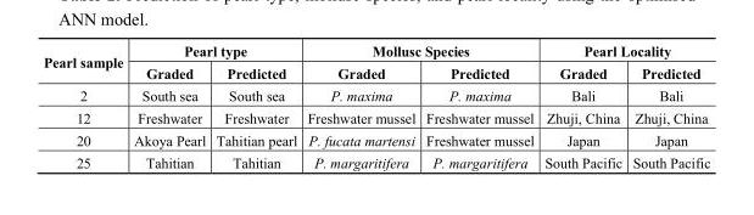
<table><thead><tr><td rowspan="2">Pearl sample</td><td colspan="2">Pearl type</td><td colspan="2">Mollusc Species</td><td colspan="2">Pearl Locality</td></tr><tr><td>Graded</td><td>Predicted</td><td>Graded</td><td>Predicted</td><td>Graded</td><td>Predicted</td></tr></thead><tbody><tr><td>2</td><td>South sea</td><td>South sea</td><td>P. maxima</td><td>P. maxima</td><td>Bali</td><td>Bali</td></tr><tr><td>12</td><td>Freshwater</td><td>Freshwater</td><td>Freshwater mussel</td><td>Freshwater mussel</td><td>Zhuji, China</td><td>Zhuji, China</td></tr><tr><td>20</td><td>Akoya Pearl</td><td>Tahitian pearl</td><td>P. fucata martensi</td><td>Freshwater mussel</td><td>Japan</td><td>Japan</td></tr><tr><td>25</td><td>Tahitian</td><td>Tahitian</td><td>P. margaritifera</td><td>P. margaritifera</td><td>South Pacific</td><td>South Pacific</td></tr></tbody></table>